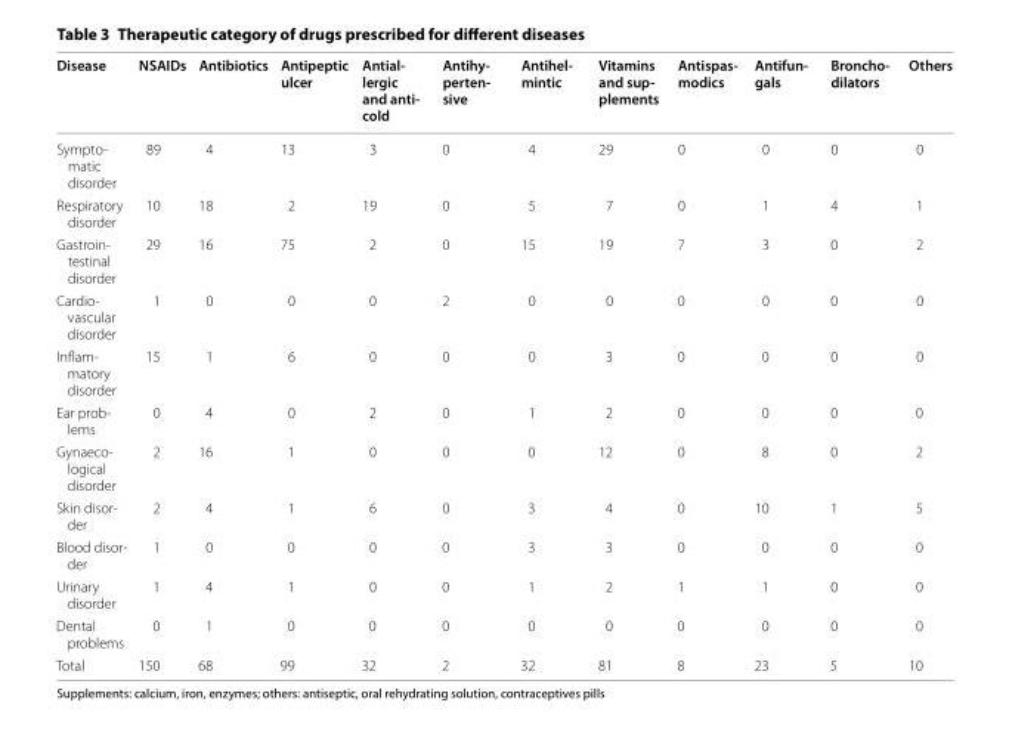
<table><thead><tr><td>Disease</td><td>NSAIDs</td><td>Antibiotics</td><td>Antipeptic ulcer</td><td>Antial- lergic and anti- cold</td><td>Antihy- perten- sive</td><td>Antihel- mintic</td><td>Vitamins and sup- plements</td><td>Antispas- modics</td><td>Antifun- gals</td><td>Broncho- dilators</td><td>Others</td></tr></thead><tbody><tr><td>Sympto‑ matic disorder</td><td>89</td><td>4</td><td>13</td><td>3</td><td>0</td><td>4</td><td>29</td><td>0</td><td>0</td><td>0</td><td>0</td></tr><tr><td>Respiratory disorder</td><td>10</td><td>18</td><td>2</td><td>19</td><td>0</td><td>5</td><td>7</td><td>0</td><td>1</td><td>4</td><td>1</td></tr><tr><td>Gastroin‑ testinal disorder</td><td>29</td><td>16</td><td>75</td><td>2</td><td>0</td><td>15</td><td>19</td><td>7</td><td>3</td><td>0</td><td>2</td></tr><tr><td>Cardio‑ vascular disorder</td><td>1</td><td>0</td><td>0</td><td>0</td><td>2</td><td>0</td><td>0</td><td>0</td><td>0</td><td>0</td><td>0</td></tr><tr><td>Inflam‑ matory disorder</td><td>15</td><td>1</td><td>6</td><td>0</td><td>0</td><td>0</td><td>3</td><td>0</td><td>0</td><td>0</td><td>0</td></tr><tr><td>Ear prob‑ lems</td><td>0</td><td>4</td><td>0</td><td>2</td><td>0</td><td>1</td><td>2</td><td>0</td><td>0</td><td>0</td><td>0</td></tr><tr><td>Gynaeco‑ logical disorder</td><td>2</td><td>16</td><td>1</td><td>0</td><td>0</td><td>0</td><td>12</td><td>0</td><td>8</td><td>0</td><td>2</td></tr><tr><td>Skin disor‑ der</td><td>2</td><td>4</td><td>1</td><td>6</td><td>0</td><td>3</td><td>4</td><td>0</td><td>10</td><td>1</td><td>5</td></tr><tr><td>Blood disor‑ der</td><td>1</td><td>0</td><td>0</td><td>0</td><td>0</td><td>3</td><td>3</td><td>0</td><td>0</td><td>0</td><td>0</td></tr><tr><td>Urinary disorder</td><td>1</td><td>4</td><td>1</td><td>0</td><td>0</td><td>1</td><td>2</td><td>1</td><td>1</td><td>0</td><td>0</td></tr><tr><td>Dental problems</td><td>0</td><td>1</td><td>0</td><td>0</td><td>0</td><td>0</td><td>0</td><td>0</td><td>0</td><td>0</td><td>0</td></tr><tr><td>Total</td><td>150</td><td>68</td><td>99</td><td>32</td><td>2</td><td>32</td><td>81</td><td>8</td><td>23</td><td>5</td><td>10</td></tr></tbody></table>